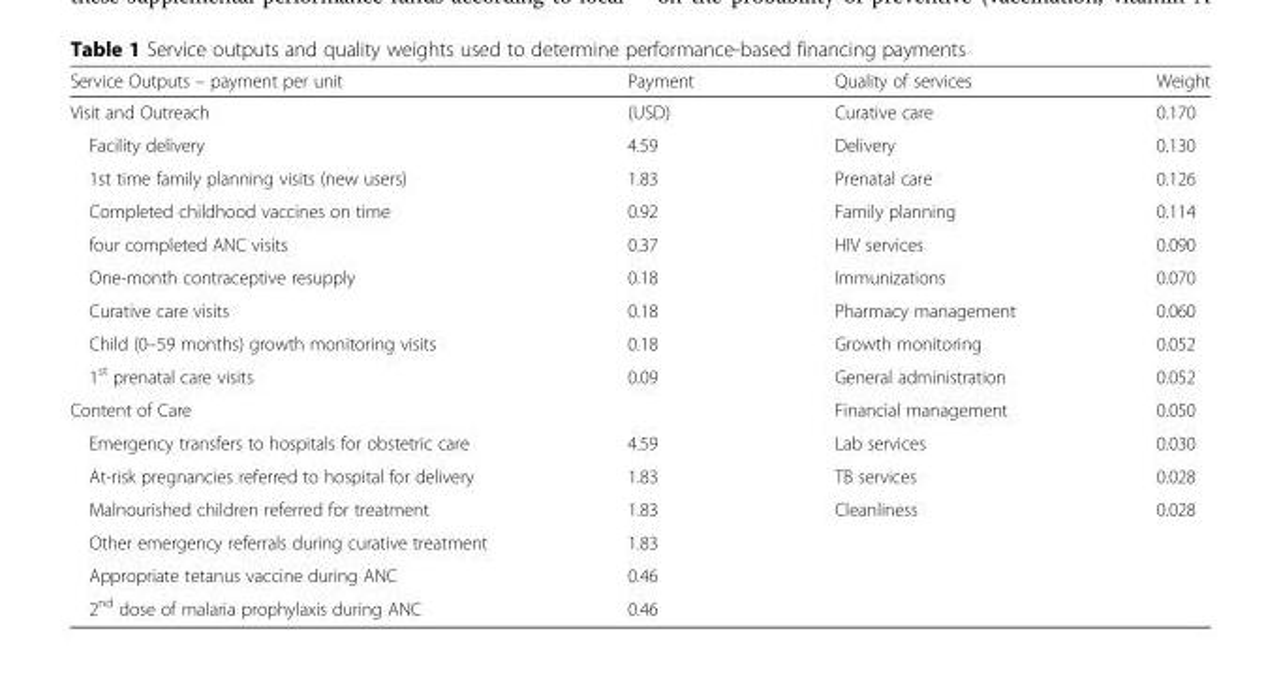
<table><thead><tr><td>Service Outputs – payment per unit</td><td>Payment</td><td>Quality of services</td><td>Weight</td></tr></thead><tbody><tr><td>Visit and Outreach</td><td>(USD)</td><td>Curative care</td><td>0.170</td></tr><tr><td>Facility delivery</td><td>4.59</td><td>Delivery</td><td>0.130</td></tr><tr><td>1st time family planning visits (new users)</td><td>1.83</td><td>Prenatal care</td><td>0.126</td></tr><tr><td>Completed childhood vaccines on time</td><td>0.92</td><td>Family planning</td><td>0.114</td></tr><tr><td>four completed ANC visits</td><td>0.37</td><td>HIV services</td><td>0.090</td></tr><tr><td>One-month contraceptive resupply</td><td>0.18</td><td>Immunizations</td><td>0.070</td></tr><tr><td>Curative care visits</td><td>0.18</td><td>Pharmacy management</td><td>0.060</td></tr><tr><td>Child (0–59 months) growth monitoring visits</td><td>0.18</td><td>Growth monitoring</td><td>0.052</td></tr><tr><td>1<sup>st</sup> prenatal care visits</td><td>0.09</td><td>General administration</td><td>0.052</td></tr><tr><td>Content of Care</td><td></td><td>Financial management</td><td>0.050</td></tr><tr><td>Emergency transfers to hospitals for obstetric care</td><td>4.59</td><td>Lab services</td><td>0.030</td></tr><tr><td>At-risk pregnancies referred to hospital for delivery</td><td>1.83</td><td>TB services</td><td>0.028</td></tr><tr><td>Malnourished children referred for treatment</td><td>1.83</td><td>Cleanliness</td><td>0.028</td></tr><tr><td>Other emergency referrals during curative treatment</td><td>1.83</td><td></td><td></td></tr><tr><td>Appropriate tetanus vaccine during ANC</td><td>0.46</td><td></td><td></td></tr><tr><td>2<sup>nd</sup> dose of malaria prophylaxis during ANC</td><td>0.46</td><td></td><td></td></tr></tbody></table>